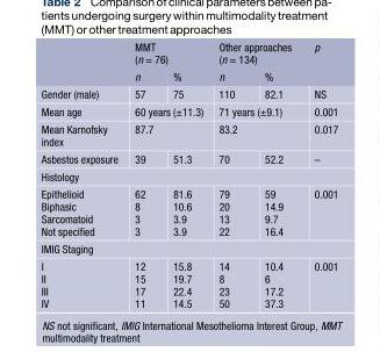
<table><thead><tr><td rowspan="2"></td><td colspan="2">MMT (n = 76)</td><td colspan="2">Other approaches (n = 134)</td><td rowspan="2">p</td></tr><tr><td>n</td><td>%</td><td>n</td><td>%</td></tr></thead><tbody><tr><td>Gender (male)</td><td>57</td><td>75</td><td>110</td><td>82.1</td><td>NS</td></tr><tr><td>Mean age</td><td colspan="2">60 years (±11.3)</td><td colspan="2">71 years (±9.1)</td><td>0.001</td></tr><tr><td>Mean Karnofsky index</td><td colspan="2">87.7</td><td colspan="2">83.2</td><td>0.017</td></tr><tr><td>Asbestos exposure</td><td>39</td><td>51.3</td><td>70</td><td>52.2</td><td>–</td></tr><tr><td colspan="6">Histology</td></tr><tr><td>Epithelioid Biphasic Sarcomatoid Not specified</td><td>62 8 3 3</td><td>81.6 10.6 3.9 3.9</td><td>79 20 13 22</td><td>59 14.9 9.7 16.4</td><td>0.001</td></tr><tr><td colspan="6">IMIG Staging</td></tr><tr><td>I II III IV</td><td>12 15 17 11</td><td>15.8 19.7 22.4 14.5</td><td>14 8 23 50</td><td>10.4 6 17.2 37.3</td><td>0.001</td></tr></tbody></table>